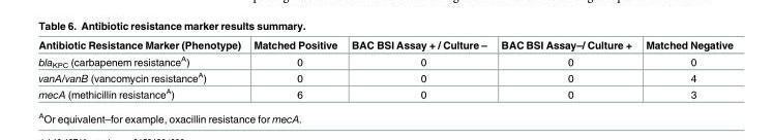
<table><thead><tr><td>Antibiotic Resistance Marker (Phenotype)</td><td>Matched Positive</td><td>BAC BSI Assay + / Culture –</td><td>BAC BSI Assay–/ Culture +</td><td>Matched Negative</td></tr></thead><tbody><tr><td>bla<sub>KPC</sub> (carbapenem resistance<sup>A</sup>)</td><td>0</td><td>0</td><td>0</td><td>0</td></tr><tr><td>vanA/vanB (vancomycin resistance<sup>A</sup>)</td><td>0</td><td>0</td><td>0</td><td>4</td></tr><tr><td>mecA (methicillin resistance<sup>A</sup>)</td><td>6</td><td>0</td><td>0</td><td>3</td></tr></tbody></table>